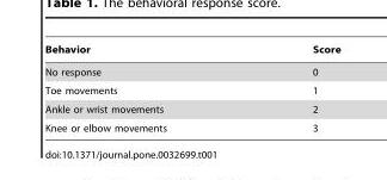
<table><thead><tr><td>Behavior</td><td>Score</td></tr></thead><tbody><tr><td>No response</td><td>0</td></tr><tr><td>Toe movements</td><td>1</td></tr><tr><td>Ankle or wrist movements</td><td>2</td></tr><tr><td>Knee or elbow movements</td><td>3</td></tr></tbody></table>